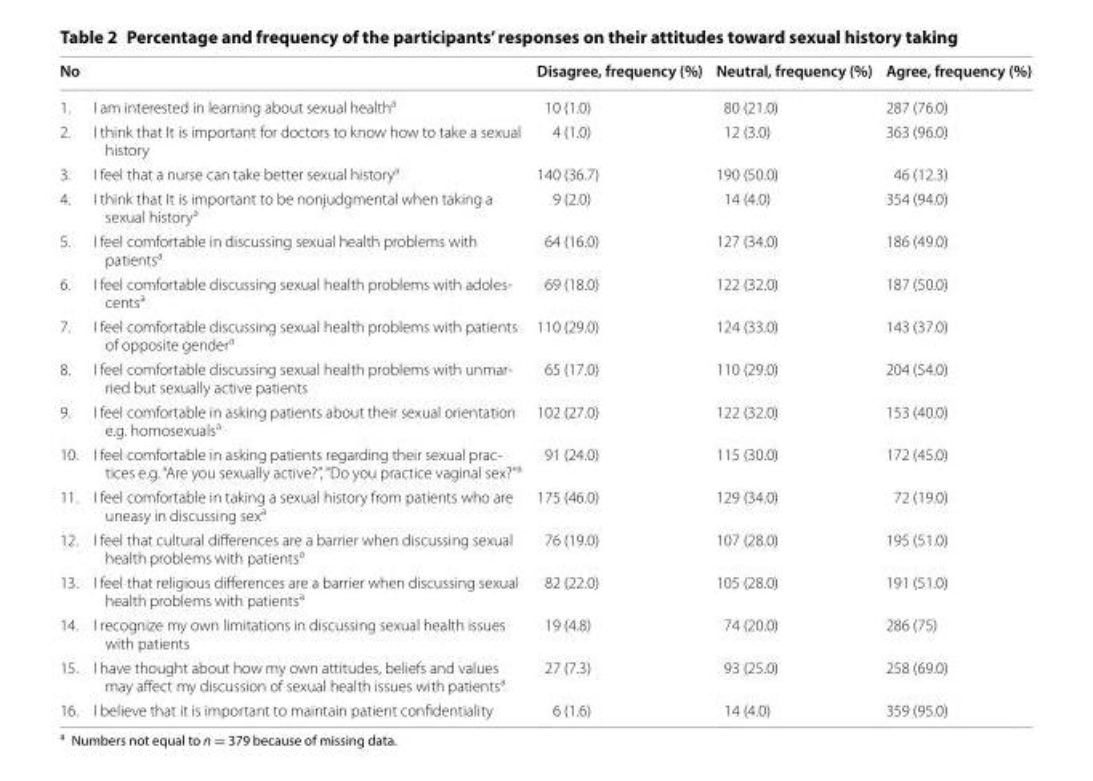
<table><thead><tr><td>No</td><td></td><td>Disagree, frequency (%)</td><td>Neutral, frequency (%)</td><td>Agree, frequency (%)</td></tr></thead><tbody><tr><td>1.</td><td>I am interested in learning about sexual health<sup>a</sup></td><td>10 (1.0)</td><td>80 (21.0)</td><td>287 (76.0)</td></tr><tr><td>2.</td><td>I think that It is important for doctors to know how to take a sexual history</td><td>4 (1.0)</td><td>12 (3.0)</td><td>363 (96.0)</td></tr><tr><td>3.</td><td>I feel that a nurse can take better sexual history<sup>a</sup></td><td>140 (36.7)</td><td>190 (50.0)</td><td>46 (12.3)</td></tr><tr><td>4.</td><td>I think that It is important to be nonjudgmental when taking a sexual history<sup>a</sup></td><td>9 (2.0)</td><td>14 (4.0)</td><td>354 (94.0)</td></tr><tr><td>5.</td><td>I feel comfortable in discussing sexual health problems with patients<sup>a</sup></td><td>64 (16.0)</td><td>127 (34.0)</td><td>186 (49.0)</td></tr><tr><td>6.</td><td>I feel comfortable discussing sexual health problems with adoles- centsa</td><td>69 (18.0)</td><td>122 (32.0)</td><td>187 (50.0)</td></tr><tr><td>7.</td><td>I feel comfortable discussing sexual health problems with patients of opposite gender<sup>a</sup></td><td>110 (29.0)</td><td>124 (33.0)</td><td>143 (37.0)</td></tr><tr><td>8.</td><td>I feel comfortable discussing sexual health problems with unmar- ried but sexually active patients</td><td>65 (17.0)</td><td>110 (29.0)</td><td>204 (54.0)</td></tr><tr><td>9.</td><td>I feel comfortable in asking patients about their sexual orientation e.g. homosexuals<sup>a</sup></td><td>102 (27.0)</td><td>122 (32.0)</td><td>153 (40.0)</td></tr><tr><td>10.</td><td>I feel comfortable in asking patients regarding their sexual prac- tices e.g. “Are you sexually active?”, “Do you practice vaginal sex?”a</td><td>91 (24.0)</td><td>115 (30.0)</td><td>172 (45.0)</td></tr><tr><td>11.</td><td>I feel comfortable in taking a sexual history from patients who are uneasy in discussing sex<sup>a</sup></td><td>175 (46.0)</td><td>129 (34.0)</td><td>72 (19.0)</td></tr><tr><td>12.</td><td>I feel that cultural differences are a barrier when discussing sexual health problems with patients<sup>a</sup></td><td>76 (19.0)</td><td>107 (28.0)</td><td>195 (51.0)</td></tr><tr><td>13.</td><td>I feel that religious differences are a barrier when discussing sexual health problems with patients<sup>a</sup></td><td>82 (22.0)</td><td>105 (28.0)</td><td>191 (51.0)</td></tr><tr><td>14.</td><td>I recognize my own limitations in discussing sexual health issues with patients</td><td>19 (4.8)</td><td>74 (20.0)</td><td>286 (75)</td></tr><tr><td>15.</td><td>I have thought about how my own attitudes, beliefs and values may affect my discussion of sexual health issues with patients<sup>a</sup></td><td>27 (7.3)</td><td>93 (25.0)</td><td>258 (69.0)</td></tr><tr><td>16.</td><td>I believe that it is important to maintain patient confidentiality</td><td>6 (1.6)</td><td>14 (4.0)</td><td>359 (95.0)</td></tr></tbody></table>